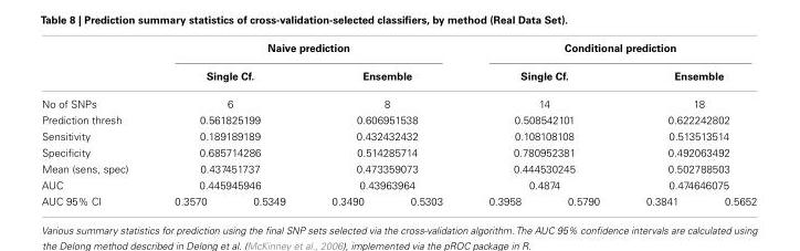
<table><thead><tr><td rowspan="2"></td><td colspan="4">Naive prediction</td><td colspan="4">Conditional prediction</td></tr><tr><td colspan="2">Single Cf.</td><td colspan="2">Ensemble</td><td colspan="2">Single Cf.</td><td colspan="2">Ensemble</td></tr></thead><tbody><tr><td>No of SNPs</td><td colspan="2">6</td><td colspan="2">8</td><td colspan="2">14</td><td colspan="2">18</td></tr><tr><td>Prediction thresh</td><td colspan="2">0.561825199</td><td colspan="2">0.606951538</td><td colspan="2">0.508542101</td><td colspan="2">0.622242802</td></tr><tr><td>Sensitivity</td><td colspan="2">0.189189189</td><td colspan="2">0.432432432</td><td colspan="2">0.108108108</td><td colspan="2">0.513513514</td></tr><tr><td>Specificity</td><td colspan="2">0.685714286</td><td colspan="2">0.514285714</td><td colspan="2">0.780952381</td><td colspan="2">0.492063492</td></tr><tr><td>Mean (sens, spec)</td><td colspan="2">0.437451737</td><td colspan="2">0.473359073</td><td colspan="2">0.444530245</td><td colspan="2">0.502788503</td></tr><tr><td>AUC</td><td colspan="2">0.445945946</td><td colspan="2">0.43963964</td><td colspan="2">0.4874</td><td colspan="2">0.474646075</td></tr><tr><td>AUC 95% CI</td><td>0.3570</td><td>0.5349</td><td>0.3490</td><td>0.5303</td><td>0.3958</td><td>0.5790</td><td>0.3841</td><td>0.5652</td></tr></tbody></table>